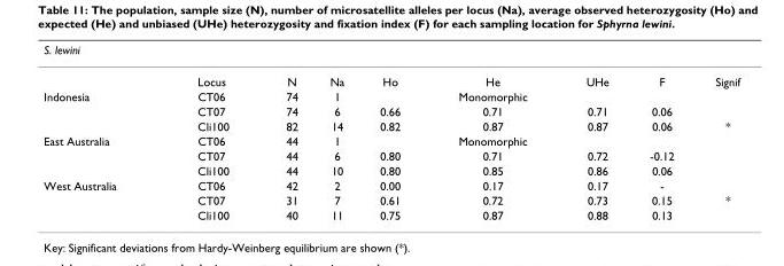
<table><thead><tr><td colspan="9">S. lewini</td></tr><tr><td></td><td>Locus</td><td>N</td><td>Na</td><td>Ho</td><td>He</td><td>UHe</td><td>F</td><td>Signif</td></tr></thead><tbody><tr><td rowspan="3">Indonesia</td><td>CT06</td><td>74</td><td>1</td><td></td><td>Monomorphic</td><td></td><td></td><td></td></tr><tr><td>CT07</td><td>74</td><td>6</td><td>0.66</td><td>0.71</td><td>0.71</td><td>0.06</td><td></td></tr><tr><td>Cli100</td><td>82</td><td>14</td><td>0.82</td><td>0.87</td><td>0.87</td><td>0.06</td><td>*</td></tr><tr><td rowspan="3">East Australia</td><td>CT06</td><td>44</td><td>1</td><td></td><td>Monomorphic</td><td></td><td></td><td></td></tr><tr><td>CT07</td><td>44</td><td>6</td><td>0.80</td><td>0.71</td><td>0.72</td><td>-0.12</td><td></td></tr><tr><td>Cli100</td><td>44</td><td>10</td><td>0.80</td><td>0.85</td><td>0.86</td><td>0.06</td><td></td></tr><tr><td rowspan="3">West Australia</td><td>CT06</td><td>42</td><td>2</td><td>0.00</td><td>0.17</td><td>0.17</td><td>-</td><td></td></tr><tr><td>CT07</td><td>31</td><td>7</td><td>0.61</td><td>0.72</td><td>0.73</td><td>0.15</td><td>*</td></tr><tr><td>Cli100</td><td>40</td><td>11</td><td>0.75</td><td>0.87</td><td>0.88</td><td>0.13</td><td></td></tr></tbody></table>